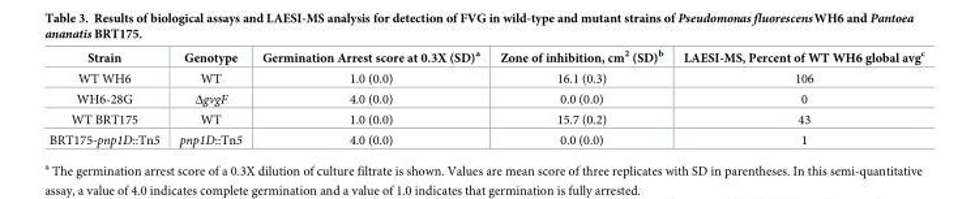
<table><thead><tr><td>Strain</td><td>Genotype</td><td>Germination Arrest score at 0.3X (SD)<sup>a</sup></td><td>Zone of inhibition, cm<sup>2</sup> (SD)<sup>b</sup></td><td>LAESI-MS, Percent of WT WH6 global avg<sup>c</sup></td></tr></thead><tbody><tr><td>WT WH6</td><td>WT</td><td>1.0 (0.0)</td><td>16.1 (0.3)</td><td>106</td></tr><tr><td>WH6-28G</td><td>ΔgvgF</td><td>4.0 (0.0)</td><td>0.0 (0.0)</td><td>0</td></tr><tr><td>WT BRT175</td><td>WT</td><td>1.0 (0.0)</td><td>15.7 (0.2)</td><td>43</td></tr><tr><td>BRT175-pnp1D::Tn5</td><td>pnp1D::Tn5</td><td>4.0 (0.0)</td><td>0.0 (0.0)</td><td>1</td></tr></tbody></table>